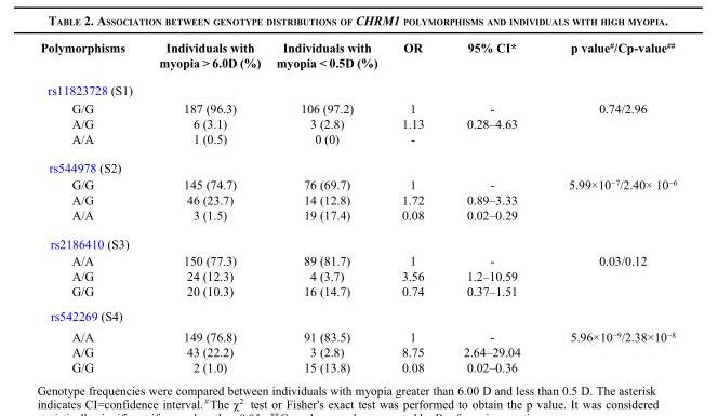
<table><tbody><tr><td>Polymorphisms</td><td>Individuals with myopia &gt; 6.0D (%)</td><td>Individuals with myopia &lt; 0.5D (%)</td><td>OR</td><td>95% CI*</td><td>p value<sup>#</sup>/Cp-value<sup>##</sup></td></tr><tr><td colspan="6">rs11823728 (S1)</td></tr><tr><td>G/G</td><td>187 (96.3)</td><td>106 (97.2)</td><td>1</td><td>-</td><td>0.74/2.96</td></tr><tr><td>A/G</td><td>6 (3.1)</td><td>3 (2.8)</td><td>1.13</td><td>0.28–4.63</td><td></td></tr><tr><td>A/A</td><td>1 (0.5)</td><td>0 (0)</td><td>-</td><td></td><td></td></tr><tr><td colspan="6">rs544978 (S2)</td></tr><tr><td>G/G</td><td>145 (74.7)</td><td>76 (69.7)</td><td>1</td><td>-</td><td>5.99×10<sup>−7</sup>/2.40× 10<sup>−6</sup></td></tr><tr><td>A/G</td><td>46 (23.7)</td><td>14 (12.8)</td><td>1.72</td><td>0.89–3.33</td><td></td></tr><tr><td>A/A</td><td>3 (1.5)</td><td>19 (17.4)</td><td>0.08</td><td>0.02–0.29</td><td></td></tr><tr><td colspan="6">rs2186410 (S3)</td></tr><tr><td>A/A</td><td>150 (77.3)</td><td>89 (81.7)</td><td>1</td><td>-</td><td>0.03/0.12</td></tr><tr><td>A/G</td><td>24 (12.3)</td><td>4 (3.7)</td><td>3.56</td><td>1.2–10.59</td><td></td></tr><tr><td>G/G</td><td>20 (10.3)</td><td>16 (14.7)</td><td>0.74</td><td>0.37–1.51</td><td></td></tr><tr><td colspan="6">rs542269 (S4)</td></tr><tr><td>A/A</td><td>149 (76.8)</td><td>91 (83.5)</td><td>1</td><td>-</td><td>5.96×10<sup>−9</sup>/2.38×10<sup>−8</sup></td></tr><tr><td>A/G</td><td>43 (22.2)</td><td>3 (2.8)</td><td>8.75</td><td>2.64–29.04</td><td></td></tr><tr><td>G/G</td><td>2 (1.0)</td><td>15 (13.8)</td><td>0.08</td><td>0.02–0.36</td><td></td></tr></tbody></table>